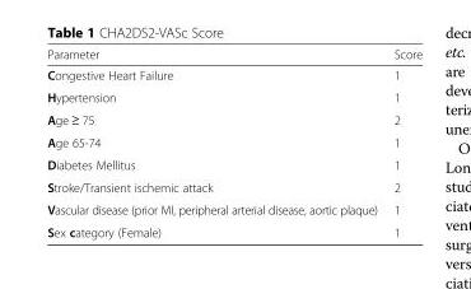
<table><thead><tr><td>Parameter</td><td>Score</td></tr></thead><tbody><tr><td>Congestive Heart Failure</td><td>1</td></tr><tr><td>Hypertension</td><td>1</td></tr><tr><td>Age ≥ 75</td><td>2</td></tr><tr><td>Age 65-74</td><td>1</td></tr><tr><td>Diabetes Mellitus</td><td>1</td></tr><tr><td>Stroke/Transient ischemic attack</td><td>2</td></tr><tr><td>Vascular disease (prior MI, peripheral arterial disease, aortic plaque)</td><td>1</td></tr><tr><td>Sex category (Female)</td><td>1</td></tr></tbody></table>